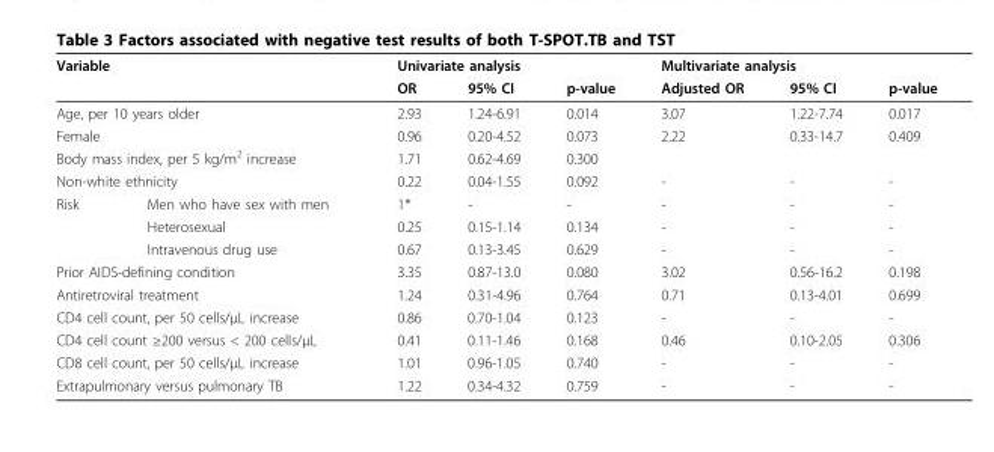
<table><thead><tr><td colspan="2">Variable</td><td colspan="3">Univariate analysis</td><td colspan="3">Multivariate analysis</td></tr><tr><td></td><td></td><td>OR</td><td>95% CI</td><td>p-value</td><td>Adjusted OR</td><td>95% CI</td><td>p-value</td></tr></thead><tbody><tr><td colspan="2">Age, per 10 years older</td><td>2.93</td><td>1.24-6.91</td><td>0.014</td><td>3.07</td><td>1.22-7.74</td><td>0.017</td></tr><tr><td colspan="2">Female</td><td>0.96</td><td>0.20-4.52</td><td>0.073</td><td>2.22</td><td>0.33-14.7</td><td>0.409</td></tr><tr><td colspan="2">Body mass index, per 5 kg/m<sup>2</sup> increase</td><td>1.71</td><td>0.62-4.69</td><td>0.300</td><td></td><td></td><td></td></tr><tr><td colspan="2">Non-white ethnicity</td><td>0.22</td><td>0.04-1.55</td><td>0.092</td><td>-</td><td>-</td><td>-</td></tr><tr><td rowspan="3">Risk</td><td>Men who have sex with men</td><td>1*</td><td>-</td><td>-</td><td>-</td><td>-</td><td>-</td></tr><tr><td>Heterosexual</td><td>0.25</td><td>0.15-1.14</td><td>0.134</td><td>-</td><td>-</td><td>-</td></tr><tr><td>Intravenous drug use</td><td>0.67</td><td>0.13-3.45</td><td>0.629</td><td>-</td><td>-</td><td>-</td></tr><tr><td colspan="2">Prior AIDS-defining condition</td><td>3.35</td><td>0.87-13.0</td><td>0.080</td><td>3.02</td><td>0.56-16.2</td><td>0.198</td></tr><tr><td colspan="2">Antiretroviral treatment</td><td>1.24</td><td>0.31-4.96</td><td>0.764</td><td>0.71</td><td>0.13-4.01</td><td>0.699</td></tr><tr><td colspan="2">CD4 cell count, per 50 cells/μL increase</td><td>0.86</td><td>0.70-1.04</td><td>0.123</td><td>-</td><td>-</td><td>-</td></tr><tr><td colspan="2">CD4 cell count ≥200 versus &lt; 200 cells/μL</td><td>0.41</td><td>0.11-1.46</td><td>0.168</td><td>0.46</td><td>0.10-2.05</td><td>0.306</td></tr><tr><td colspan="2">CD8 cell count, per 50 cells/μL increase</td><td>1.01</td><td>0.96-1.05</td><td>0.740</td><td>-</td><td>-</td><td>-</td></tr><tr><td colspan="2">Extrapulmonary versus pulmonary TB</td><td>1.22</td><td>0.34-4.32</td><td>0.759</td><td>-</td><td>-</td><td>-</td></tr></tbody></table>